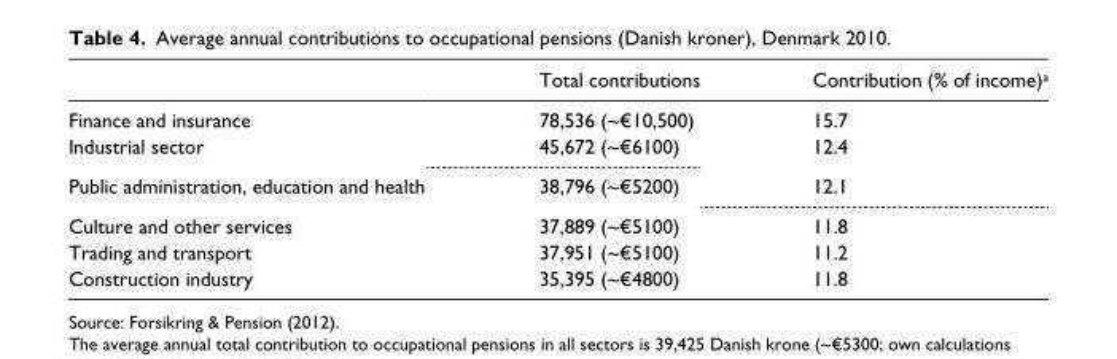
<table><thead><tr><td></td><td>Total contributions</td><td>Contribution (% of income)<sup>a</sup></td></tr></thead><tbody><tr><td>Finance and insurance</td><td>78,536 (~€10,500)</td><td>15.7</td></tr><tr><td>Industrial sector</td><td>45,672 (~€6100)</td><td>12.4</td></tr><tr><td>Public administration, education and health</td><td>38,796 (~€5200)</td><td>12.1</td></tr><tr><td>Culture and other services</td><td>37,889 (~€5100)</td><td>11.8</td></tr><tr><td>Trading and transport</td><td>37,951 (~€5100)</td><td>11.2</td></tr><tr><td>Construction industry</td><td>35,395 (~€4800)</td><td>11.8</td></tr></tbody></table>